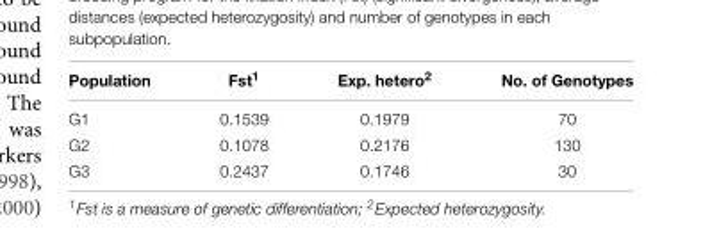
<table><thead><tr><td>Population</td><td>Fst<sup>1</sup></td><td>Exp. hetero<sup>2</sup></td><td>No. of Genotypes</td></tr></thead><tbody><tr><td>G1</td><td>0.1539</td><td>0.1979</td><td>70</td></tr><tr><td>G2</td><td>0.1078</td><td>0.2176</td><td>130</td></tr><tr><td>G3</td><td>0.2437</td><td>0.1746</td><td>30</td></tr></tbody></table>